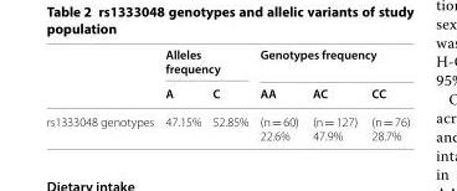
<table><thead><tr><td rowspan="2"></td><td colspan="2">Alleles frequency</td><td colspan="3">Genotypes frequency</td></tr><tr><td>A</td><td>C</td><td>AA</td><td>AC</td><td>CC</td></tr></thead><tbody><tr><td>rs1333048 genotypes</td><td>47.15%</td><td>52.85%</td><td>(n = 60) 22.6%</td><td>(n = 127) 47.9%</td><td>(n = 76) 28.7%</td></tr></tbody></table>